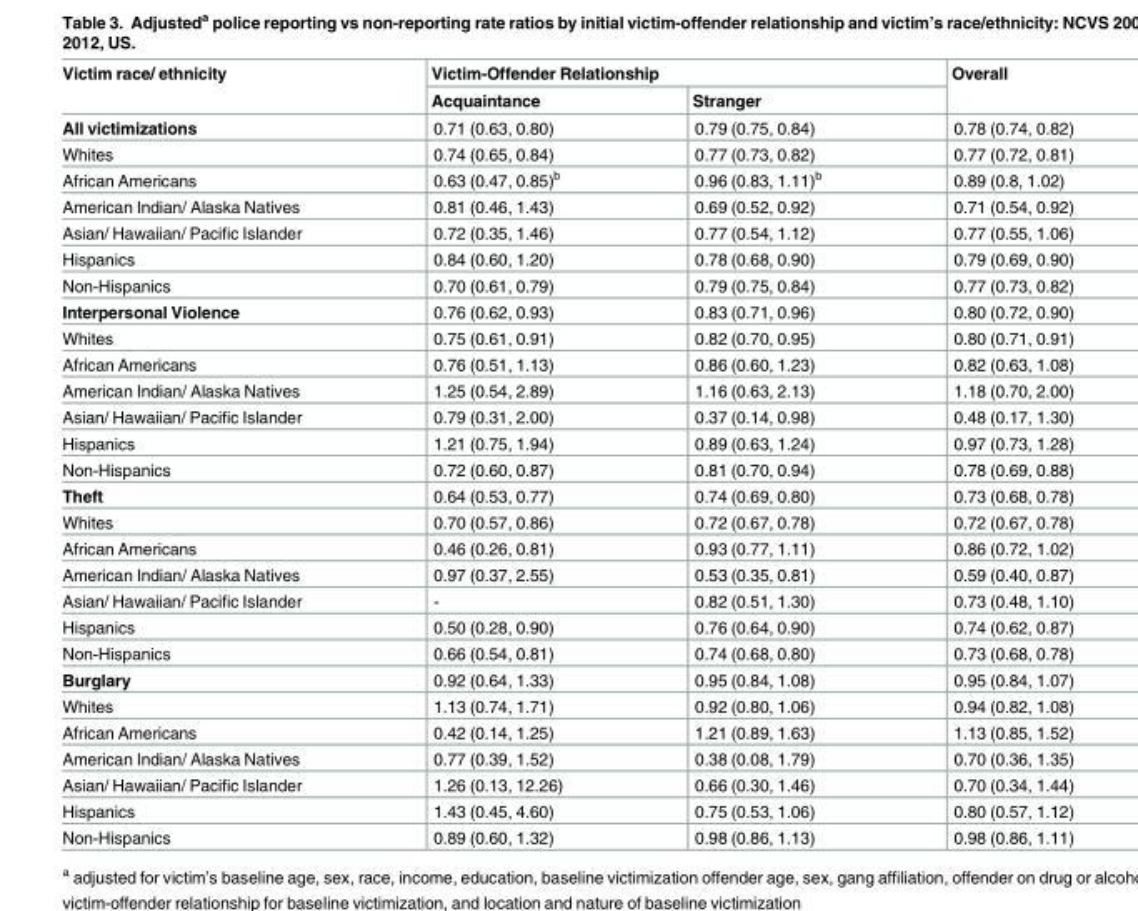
<table><thead><tr><td rowspan="2">Victim race/ ethnicity</td><td colspan="2">Victim-Offender Relationship</td><td rowspan="2">Overall</td></tr><tr><td>Acquaintance</td><td>Stranger</td></tr></thead><tbody><tr><td>All victimizations</td><td>0.71 (0.63, 0.80)</td><td>0.79 (0.75, 0.84)</td><td>0.78 (0.74, 0.82)</td></tr><tr><td>Whites</td><td>0.74 (0.65, 0.84)</td><td>0.77 (0.73, 0.82)</td><td>0.77 (0.72, 0.81)</td></tr><tr><td>African Americans</td><td>0.63 (0.47, 0.85)<sup>b</sup></td><td>0.96 (0.83, 1.11)<sup>b</sup></td><td>0.89 (0.8, 1.02)</td></tr><tr><td>American Indian/ Alaska Natives</td><td>0.81 (0.46, 1.43)</td><td>0.69 (0.52, 0.92)</td><td>0.71 (0.54, 0.92)</td></tr><tr><td>Asian/ Hawaiian/ Pacific Islander</td><td>0.72 (0.35, 1.46)</td><td>0.77 (0.54, 1.12)</td><td>0.77 (0.55, 1.06)</td></tr><tr><td>Hispanics</td><td>0.84 (0.60, 1.20)</td><td>0.78 (0.68, 0.90)</td><td>0.79 (0.69, 0.90)</td></tr><tr><td>Non-Hispanics</td><td>0.70 (0.61, 0.79)</td><td>0.79 (0.75, 0.84)</td><td>0.77 (0.73, 0.82)</td></tr><tr><td>Interpersonal Violence</td><td>0.76 (0.62, 0.93)</td><td>0.83 (0.71, 0.96)</td><td>0.80 (0.72, 0.90)</td></tr><tr><td>Whites</td><td>0.75 (0.61, 0.91)</td><td>0.82 (0.70, 0.95)</td><td>0.80 (0.71, 0.91)</td></tr><tr><td>African Americans</td><td>0.76 (0.51, 1.13)</td><td>0.86 (0.60, 1.23)</td><td>0.82 (0.63, 1.08)</td></tr><tr><td>American Indian/ Alaska Natives</td><td>1.25 (0.54, 2.89)</td><td>1.16 (0.63, 2.13)</td><td>1.18 (0.70, 2.00)</td></tr><tr><td>Asian/ Hawaiian/ Pacific Islander</td><td>0.79 (0.31, 2.00)</td><td>0.37 (0.14, 0.98)</td><td>0.48 (0.17, 1.30)</td></tr><tr><td>Hispanics</td><td>1.21 (0.75, 1.94)</td><td>0.89 (0.63, 1.24)</td><td>0.97 (0.73, 1.28)</td></tr><tr><td>Non-Hispanics</td><td>0.72 (0.60, 0.87)</td><td>0.81 (0.70, 0.94)</td><td>0.78 (0.69, 0.88)</td></tr><tr><td>Theft</td><td>0.64 (0.53, 0.77)</td><td>0.74 (0.69, 0.80)</td><td>0.73 (0.68, 0.78)</td></tr><tr><td>Whites</td><td>0.70 (0.57, 0.86)</td><td>0.72 (0.67, 0.78)</td><td>0.72 (0.67, 0.78)</td></tr><tr><td>African Americans</td><td>0.46 (0.26, 0.81)</td><td>0.93 (0.77, 1.11)</td><td>0.86 (0.72, 1.02)</td></tr><tr><td>American Indian/ Alaska Natives</td><td>0.97 (0.37, 2.55)</td><td>0.53 (0.35, 0.81)</td><td>0.59 (0.40, 0.87)</td></tr><tr><td>Asian/ Hawaiian/ Pacific Islander</td><td>-</td><td>0.82 (0.51, 1.30)</td><td>0.73 (0.48, 1.10)</td></tr><tr><td>Hispanics</td><td>0.50 (0.28, 0.90)</td><td>0.76 (0.64, 0.90)</td><td>0.74 (0.62, 0.87)</td></tr><tr><td>Non-Hispanics</td><td>0.66 (0.54, 0.81)</td><td>0.74 (0.68, 0.80)</td><td>0.73 (0.68, 0.78)</td></tr><tr><td>Burglary</td><td>0.92 (0.64, 1.33)</td><td>0.95 (0.84, 1.08)</td><td>0.95 (0.84, 1.07)</td></tr><tr><td>Whites</td><td>1.13 (0.74, 1.71)</td><td>0.92 (0.80, 1.06)</td><td>0.94 (0.82, 1.08)</td></tr><tr><td>African Americans</td><td>0.42 (0.14, 1.25)</td><td>1.21 (0.89, 1.63)</td><td>1.13 (0.85, 1.52)</td></tr><tr><td>American Indian/ Alaska Natives</td><td>0.77 (0.39, 1.52)</td><td>0.38 (0.08, 1.79)</td><td>0.70 (0.36, 1.35)</td></tr><tr><td>Asian/ Hawaiian/ Pacific Islander</td><td>1.26 (0.13, 12.26)</td><td>0.66 (0.30, 1.46)</td><td>0.70 (0.34, 1.44)</td></tr><tr><td>Hispanics</td><td>1.43 (0.45, 4.60)</td><td>0.75 (0.53, 1.06)</td><td>0.80 (0.57, 1.12)</td></tr><tr><td>Non-Hispanics</td><td>0.89 (0.60, 1.32)</td><td>0.98 (0.86, 1.13)</td><td>0.98 (0.86, 1.11)</td></tr></tbody></table>